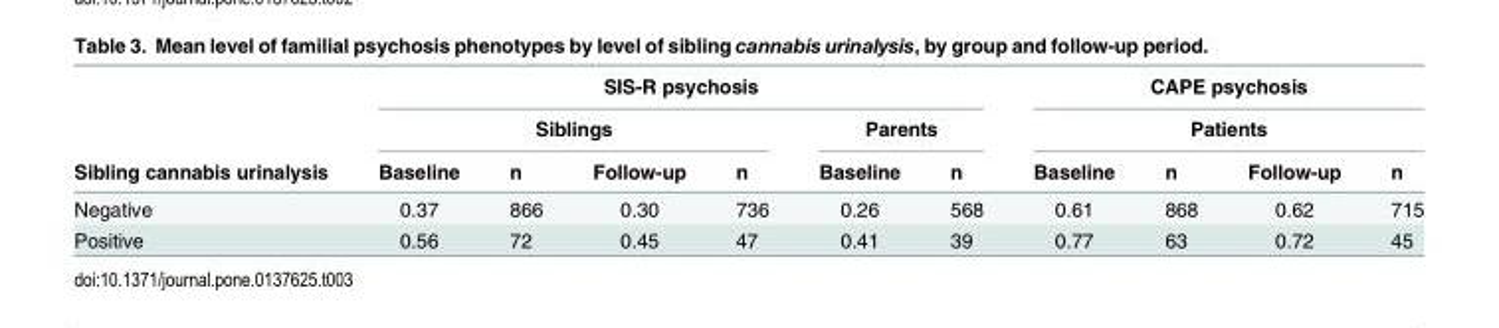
<table><thead><tr><td rowspan="3">Sibling cannabis urinalysis</td><td colspan="6">SIS-R psychosis</td><td rowspan="2" colspan="4">CAPE psychosis Patients</td></tr><tr><td colspan="4">Siblings</td><td colspan="2">Parents</td></tr><tr><td>Baseline</td><td>n</td><td>Follow-up</td><td>n</td><td>Baseline</td><td>n</td><td>Baseline</td><td>n</td><td>Follow-up</td><td>n</td></tr></thead><tbody><tr><td>Negative</td><td>0.37</td><td>866</td><td>0.30</td><td>736</td><td>0.26</td><td>568</td><td>0.61</td><td>868</td><td>0.62</td><td>715</td></tr><tr><td>Positive</td><td>0.56</td><td>72</td><td>0.45</td><td>47</td><td>0.41</td><td>39</td><td>0.77</td><td>63</td><td>0.72</td><td>45</td></tr></tbody></table>